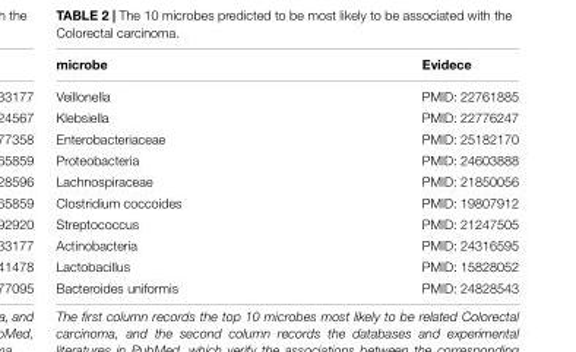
<table><thead><tr><td>microbe</td><td>Evidece</td></tr></thead><tbody><tr><td>Veillonella</td><td>PMID: 22761885</td></tr><tr><td>Klebsiella</td><td>PMID: 22776247</td></tr><tr><td>Enterobacteriaceae</td><td>PMID: 25182170</td></tr><tr><td>Proteobacteria</td><td>PMID: 24603888</td></tr><tr><td>Lachnospiraceae</td><td>PMID: 21850056</td></tr><tr><td>Clostridium coccoides</td><td>PMID: 19807912</td></tr><tr><td>Streptococcus</td><td>PMID: 21247505</td></tr><tr><td>Actinobacteria</td><td>PMID: 24316595</td></tr><tr><td>Lactobacillus</td><td>PMID: 15828052</td></tr><tr><td>Bacteroides uniformis</td><td>PMID: 24828543</td></tr></tbody></table>